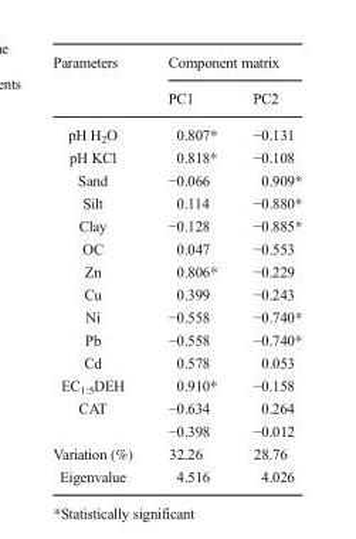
<table><thead><tr><td rowspan="2">Parameters</td><td colspan="2">Component matrix</td></tr><tr><td>PC1</td><td>PC2</td></tr></thead><tbody><tr><td>pH H<sub>2</sub>O</td><td>0.807*</td><td>−0.131</td></tr><tr><td>pH KCl</td><td>0.818*</td><td>−0.108</td></tr><tr><td>Sand</td><td>−0.066</td><td>0.909*</td></tr><tr><td>Silt</td><td>0.114</td><td>−0.880*</td></tr><tr><td>Clay</td><td>−0.128</td><td>−0.885*</td></tr><tr><td>OC</td><td>0.047</td><td>−0.553</td></tr><tr><td>Zn</td><td>0.806*</td><td>−0.229</td></tr><tr><td>Cu</td><td>0.399</td><td>−0.243</td></tr><tr><td>Ni</td><td>−0.558</td><td>−0.740*</td></tr><tr><td>Pb</td><td>−0.558</td><td>−0.740*</td></tr><tr><td>Cd</td><td>0.578</td><td>0.053</td></tr><tr><td>EC<sub>1:5</sub>DEH</td><td>0.910*</td><td>−0.158</td></tr><tr><td rowspan="2">CAT</td><td>−0.634</td><td>0.264</td></tr><tr><td>−0.398</td><td>−0.012</td></tr><tr><td>Variation (%)</td><td>32.26</td><td>28.76</td></tr><tr><td>Eigenvalue</td><td>4.516</td><td>4.026</td></tr></tbody></table>